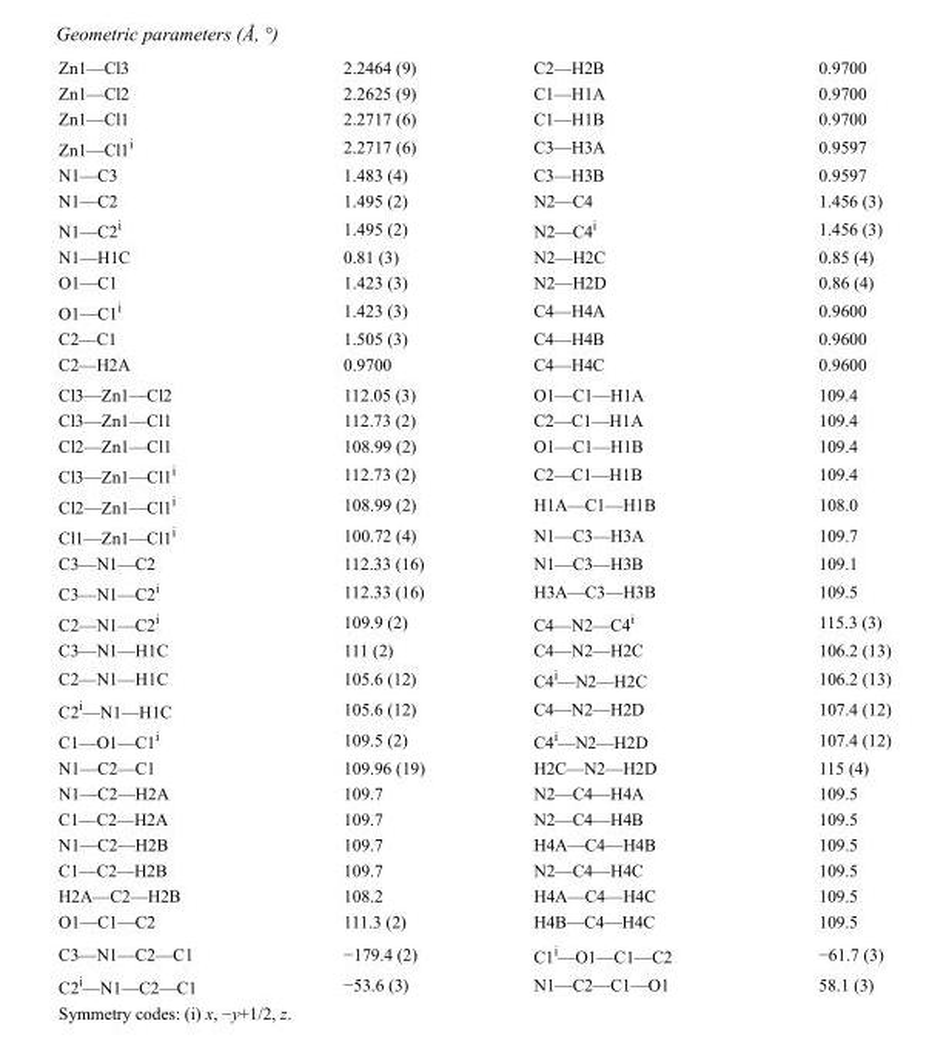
<table><tbody><tr><td>Zn1—Cl3</td><td>2.2464 (9)</td><td>C2—H2B</td><td>0.9700</td></tr><tr><td>Zn1—Cl2</td><td>2.2625 (9)</td><td>C1—H1A</td><td>0.9700</td></tr><tr><td>Zn1—Cl1</td><td>2.2717 (6)</td><td>C1—H1B</td><td>0.9700</td></tr><tr><td>Zn1—Cl1<sup>i</sup></td><td>2.2717 (6)</td><td>C3—H3A</td><td>0.9597</td></tr><tr><td>N1—C3</td><td>1.483 (4)</td><td>C3—H3B</td><td>0.9597</td></tr><tr><td>N1—C2</td><td>1.495 (2)</td><td>N2—C4</td><td>1.456 (3)</td></tr><tr><td>N1—C2<sup>i</sup></td><td>1.495 (2)</td><td>N2—C4<sup>i</sup></td><td>1.456 (3)</td></tr><tr><td>N1—H1C</td><td>0.81 (3)</td><td>N2—H2C</td><td>0.85 (4)</td></tr><tr><td>O1—C1</td><td>1.423 (3)</td><td>N2—H2D</td><td>0.86 (4)</td></tr><tr><td>O1—C1<sup>i</sup></td><td>1.423 (3)</td><td>C4—H4A</td><td>0.9600</td></tr><tr><td>C2—C1</td><td>1.505 (3)</td><td>C4—H4B</td><td>0.9600</td></tr><tr><td>C2—H2A</td><td>0.9700</td><td>C4—H4C</td><td>0.9600</td></tr><tr><td>Cl3—Zn1—Cl2</td><td>112.05 (3)</td><td>O1—C1—H1A</td><td>109.4</td></tr><tr><td>Cl3—Zn1—Cl1</td><td>112.73 (2)</td><td>C2—C1—H1A</td><td>109.4</td></tr><tr><td>Cl2—Zn1—Cl1</td><td>108.99 (2)</td><td>O1—C1—H1B</td><td>109.4</td></tr><tr><td>Cl3—Zn1—Cl1<sup>i</sup></td><td>112.73 (2)</td><td>C2—C1—H1B</td><td>109.4</td></tr><tr><td>Cl2—Zn1—Cl1<sup>i</sup></td><td>108.99 (2)</td><td>H1A—C1—H1B</td><td>108.0</td></tr><tr><td>Cl1—Zn1—Cl1<sup>i</sup></td><td>100.72 (4)</td><td>N1—C3—H3A</td><td>109.7</td></tr><tr><td>C3—N1—C2</td><td>112.33 (16)</td><td>N1—C3—H3B</td><td>109.1</td></tr><tr><td>C3—N1—C2<sup>i</sup></td><td>112.33 (16)</td><td>H3A—C3—H3B</td><td>109.5</td></tr><tr><td>C2—N1—C2<sup>i</sup></td><td>109.9 (2)</td><td>C4—N2—C4<sup>i</sup></td><td>115.3 (3)</td></tr><tr><td>C3—N1—H1C</td><td>111 (2)</td><td>C4—N2—H2C</td><td>106.2 (13)</td></tr><tr><td>C2—N1—H1C</td><td>105.6 (12)</td><td>C4<sup>i</sup>—N2—H2C</td><td>106.2 (13)</td></tr><tr><td>C2<sup>i</sup>—N1—H1C</td><td>105.6 (12)</td><td>C4—N2—H2D</td><td>107.4 (12)</td></tr><tr><td>C1—O1—C1<sup>i</sup></td><td>109.5 (2)</td><td>C4<sup>i</sup>—N2—H2D</td><td>107.4 (12)</td></tr><tr><td>N1—C2—C1</td><td>109.96 (19)</td><td>H2C—N2—H2D</td><td>115 (4)</td></tr><tr><td>N1—C2—H2A</td><td>109.7</td><td>N2—C4—H4A</td><td>109.5</td></tr><tr><td>C1—C2—H2A</td><td>109.7</td><td>N2—C4—H4B</td><td>109.5</td></tr><tr><td>N1—C2—H2B</td><td>109.7</td><td>H4A—C4—H4B</td><td>109.5</td></tr><tr><td>C1—C2—H2B</td><td>109.7</td><td>N2—C4—H4C</td><td>109.5</td></tr><tr><td>H2A—C2—H2B</td><td>108.2</td><td>H4A—C4—H4C</td><td>109.5</td></tr><tr><td>O1—C1—C2</td><td>111.3 (2)</td><td>H4B—C4—H4C</td><td>109.5</td></tr><tr><td>C3—N1—C2—C1</td><td>−179.4 (2)</td><td>C1<sup>i</sup>—O1—C1—C2</td><td>−61.7 (3)</td></tr><tr><td>C2<sup>i</sup>—N1—C2—C1</td><td>−53.6 (3)</td><td>N1—C2—C1—O1</td><td>58.1 (3)</td></tr></tbody></table>